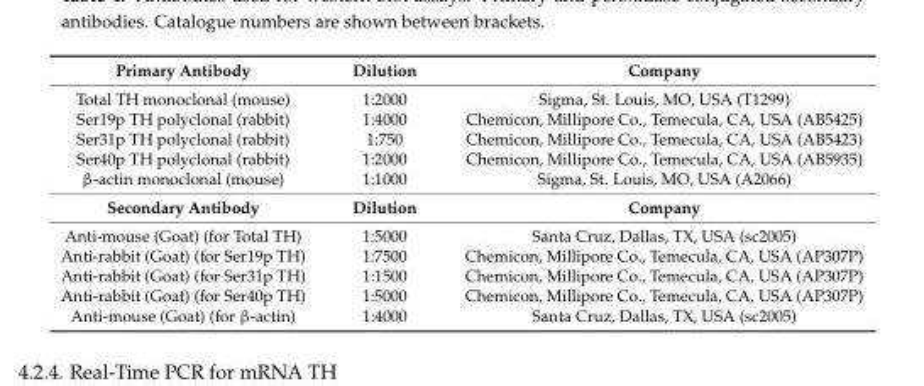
<table><tbody><tr><td>Primary Antibody</td><td>Dilution</td><td>Company</td></tr><tr><td>Total TH monoclonal (mouse)</td><td>1:2000</td><td>Sigma, St. Louis, MO, USA (T1299)</td></tr><tr><td>Ser19p TH polyclonal (rabbit)</td><td>1:4000</td><td>Chemicon, Millipore Co., Temecula, CA, USA (AB5425)</td></tr><tr><td>Ser31p TH polyclonal (rabbit)</td><td>1:750</td><td>Chemicon, Millipore Co., Temecula, CA, USA (AB5423)</td></tr><tr><td>Ser40p TH polyclonal (rabbit)</td><td>1:2000</td><td>Chemicon, Millipore Co., Temecula, CA, USA (AB5935)</td></tr><tr><td>β-actin monoclonal (mouse)</td><td>1:1000</td><td>Sigma, St. Louis, MO, USA (A2066)</td></tr><tr><td>Secondary Antibody</td><td>Dilution</td><td>Company</td></tr><tr><td>Anti-mouse (Goat) (for Total TH)</td><td>1:5000</td><td>Santa Cruz, Dallas, TX, USA (sc2005)</td></tr><tr><td>Anti-rabbit (Goat) (for Ser19p TH)</td><td>1:7500</td><td>Chemicon, Millipore Co., Temecula, CA, USA (AP307P)</td></tr><tr><td>Anti-rabbit (Goat) (for Ser31p TH)</td><td>1:1500</td><td>Chemicon, Millipore Co., Temecula, CA, USA (AP307P)</td></tr><tr><td>Anti-rabbit (Goat) (for Ser40p TH)</td><td>1:5000</td><td>Chemicon, Millipore Co., Temecula, CA, USA (AP307P)</td></tr><tr><td>Anti-mouse (Goat) (for β-actin)</td><td>1:4000</td><td>Santa Cruz, Dallas, TX, USA (sc2005)</td></tr></tbody></table>